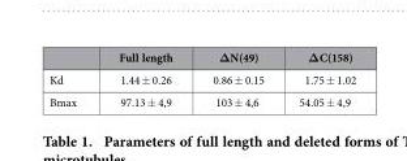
<table><thead><tr><td></td><td>Full length</td><td>ΔN(49)</td><td>ΔC(158)</td></tr></thead><tbody><tr><td>Kd</td><td>1.44 ± 0.26</td><td>0.86 ± 0.15</td><td>1.75 ± 1.02</td></tr><tr><td>Bmax</td><td>97.13 ± 4,9</td><td>103 ± 4,6</td><td>54.05 ± 4,9</td></tr></tbody></table>